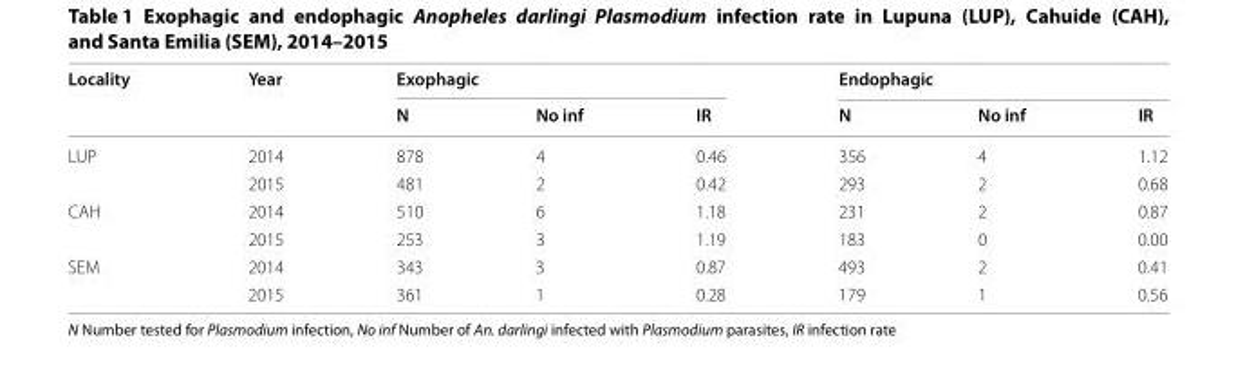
<table><thead><tr><td rowspan="2">Locality</td><td rowspan="2">Year</td><td colspan="3">Exophagic</td><td colspan="3">Endophagic</td></tr><tr><td>N</td><td>No inf</td><td>IR</td><td>N</td><td>No inf</td><td>IR</td></tr></thead><tbody><tr><td rowspan="2">LUP</td><td>2014</td><td>878</td><td>4</td><td>0.46</td><td>356</td><td>4</td><td>1.12</td></tr><tr><td>2015</td><td>481</td><td>2</td><td>0.42</td><td>293</td><td>2</td><td>0.68</td></tr><tr><td rowspan="2">CAH</td><td>2014</td><td>510</td><td>6</td><td>1.18</td><td>231</td><td>2</td><td>0.87</td></tr><tr><td>2015</td><td>253</td><td>3</td><td>1.19</td><td>183</td><td>0</td><td>0.00</td></tr><tr><td rowspan="2">SEM</td><td>2014</td><td>343</td><td>3</td><td>0.87</td><td>493</td><td>2</td><td>0.41</td></tr><tr><td>2015</td><td>361</td><td>1</td><td>0.28</td><td>179</td><td>1</td><td>0.56</td></tr></tbody></table>